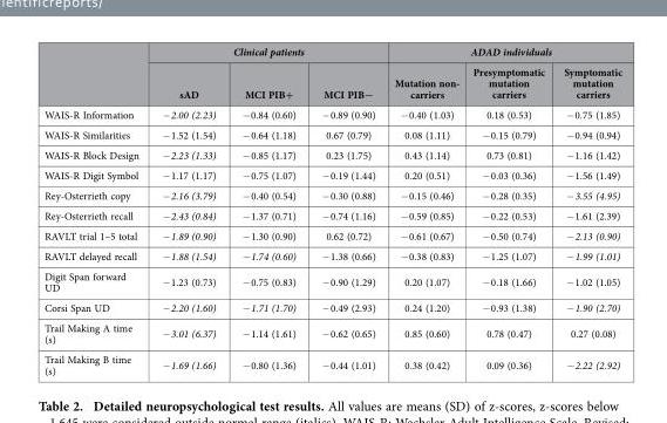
<table><thead><tr><td rowspan="2"></td><td colspan="3">Clinical patients</td><td colspan="3">ADAD individuals</td></tr><tr><td>sAD</td><td>MCI PIB+</td><td>MCI PIB−</td><td>Mutation non- carriers</td><td>Presymptomatic mutation carriers</td><td>Symptomatic mutation carriers</td></tr></thead><tbody><tr><td>WAIS-R Information</td><td>− 2.00 (2.23)</td><td>− 0.84 (0.60)</td><td>− 0.89 (0.90)</td><td>− 0.40 (1.03)</td><td>0.18 (0.53)</td><td>− 0.75 (1.85)</td></tr><tr><td>WAIS-R Similarities</td><td>− 1.52 (1.54)</td><td>− 0.64 (1.18)</td><td>0.67 (0.79)</td><td>0.08 (1.11)</td><td>− 0.15 (0.79)</td><td>− 0.94 (0.94)</td></tr><tr><td>WAIS-R Block Design</td><td>− 2.23 (1.33)</td><td>− 0.85 (1.17)</td><td>0.23 (1.75)</td><td>0.43 (1.14)</td><td>0.73 (0.81)</td><td>− 1.16 (1.42)</td></tr><tr><td>WAIS-R Digit Symbol</td><td>− 1.17 (1.17)</td><td>− 0.75 (1.07)</td><td>− 0.19 (1.44)</td><td>0.20 (0.51)</td><td>− 0.03 (0.36)</td><td>− 1.56 (1.49)</td></tr><tr><td>Rey-Osterrieth copy</td><td>− 2.16 (3.79)</td><td>− 0.40 (0.54)</td><td>− 0.30 (0.88)</td><td>− 0.15 (0.46)</td><td>− 0.28 (0.35)</td><td>− 3.55 (4.95)</td></tr><tr><td>Rey-Osterrieth recall</td><td>− 2.43 (0.84)</td><td>− 1.37 (0.71)</td><td>− 0.74 (1.16)</td><td>− 0.59 (0.85)</td><td>− 0.22 (0.53)</td><td>− 1.61 (2.39)</td></tr><tr><td>RAVLT trial 1–5 total</td><td>− 1.89 (0.90)</td><td>− 1.30 (0.90)</td><td>0.62 (0.72)</td><td>− 0.61 (0.67)</td><td>− 0.50 (0.74)</td><td>− 2.13 (0.90)</td></tr><tr><td>RAVLT delayed recall</td><td>− 1.88 (1.54)</td><td>− 1.74 (0.60)</td><td>− 1.38 (0.66)</td><td>− 0.38 (0.83)</td><td>− 1.25 (1.07)</td><td>− 1.99 (1.01)</td></tr><tr><td>Digit Span forward UD</td><td>− 1.23 (0.73)</td><td>− 0.75 (0.83)</td><td>− 0.90 (1.29)</td><td>0.20 (1.07)</td><td>− 0.18 (1.66)</td><td>− 1.02 (1.05)</td></tr><tr><td>Corsi Span UD</td><td>− 2.20 (1.60)</td><td>− 1.71 (1.70)</td><td>− 0.49 (2.93)</td><td>0.24 (1.20)</td><td>− 0.93 (1.38)</td><td>− 1.90 (2.70)</td></tr><tr><td>Trail Making A time (s)</td><td>− 3.01 (6.37)</td><td>− 1.14 (1.61)</td><td>− 0.62 (0.65)</td><td>0.85 (0.60)</td><td>0.78 (0.47)</td><td>0.27 (0.08)</td></tr><tr><td>Trail Making B time (s)</td><td>− 1.69 (1.66)</td><td>− 0.80 (1.36)</td><td>− 0.44 (1.01)</td><td>0.38 (0.42)</td><td>0.09 (0.36)</td><td>− 2.22 (2.92)</td></tr></tbody></table>